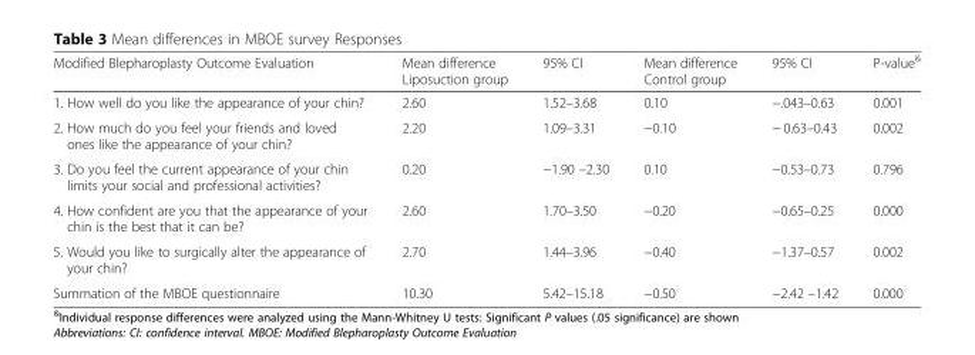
<table><thead><tr><td>Modified Blepharoplasty Outcome Evaluation</td><td>Mean difference Liposuction group</td><td>95% CI</td><td>Mean difference Control group</td><td>95% CI</td><td>P-value<sup>&amp;</sup></td></tr></thead><tbody><tr><td>1. How well do you like the appearance of your chin?</td><td>2.60</td><td>1.52–3.68</td><td>0.10</td><td>−.043–0.63</td><td>0.001</td></tr><tr><td>2. How much do you feel your friends and loved ones like the appearance of your chin?</td><td>2.20</td><td>1.09–3.31</td><td>−0.10</td><td>− 0.63–0.43</td><td>0.002</td></tr><tr><td>3. Do you feel the current appearance of your chin limits your social and professional activities?</td><td>0.20</td><td>−1.90 –2.30</td><td>0.10</td><td>−0.53–0.73</td><td>0.796</td></tr><tr><td>4. How confident are you that the appearance of your chin is the best that it can be?</td><td>2.60</td><td>1.70–3.50</td><td>−0.20</td><td>−0.65–0.25</td><td>0.000</td></tr><tr><td>5. Would you like to surgically alter the appearance of your chin?</td><td>2.70</td><td>1.44–3.96</td><td>−0.40</td><td>−1.37–0.57</td><td>0.002</td></tr><tr><td>Summation of the MBOE questionnaire</td><td>10.30</td><td>5.42–15.18</td><td>−0.50</td><td>−2.42 –1.42</td><td>0.000</td></tr></tbody></table>